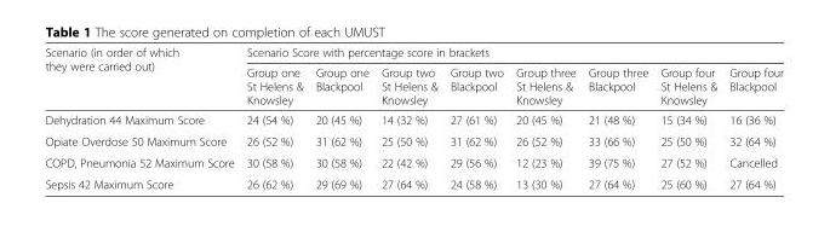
<table><thead><tr><td rowspan="2">Scenario (in order of which they were carried out)</td><td colspan="8">Scenario Score with percentage score in brackets</td></tr><tr><td>Group one St Helens &amp; Knowsley</td><td>Group one Blackpool</td><td>Group two St Helens &amp; Knowsley</td><td>Group two Blackpool</td><td>Group three St Helens &amp; Knowsley</td><td>Group three Blackpool</td><td>Group four St Helens &amp; Knowsley</td><td>Group four Blackpool</td></tr></thead><tbody><tr><td>Dehydration 44 Maximum Score</td><td>24 (54 %)</td><td>20 (45 %)</td><td>14 (32 %)</td><td>27 (61 %)</td><td>20 (45 %)</td><td>21 (48 %)</td><td>15 (34 %)</td><td>16 (36 %)</td></tr><tr><td>Opiate Overdose 50 Maximum Score</td><td>26 (52 %)</td><td>31 (62 %)</td><td>25 (50 %)</td><td>31 (62 %)</td><td>26 (52 %)</td><td>33 (66 %)</td><td>25 (50 %)</td><td>32 (64 %)</td></tr><tr><td>COPD, Pneumonia 52 Maximum Score</td><td>30 (58 %)</td><td>30 (58 %)</td><td>22 (42 %)</td><td>29 (56 %)</td><td>12 (23 %)</td><td>39 (75 %)</td><td>27 (52 %)</td><td>Cancelled</td></tr><tr><td>Sepsis 42 Maximum Score</td><td>26 (62 %)</td><td>29 (69 %)</td><td>27 (64 %)</td><td>24 (58 %)</td><td>13 (30 %)</td><td>27 (64 %)</td><td>25 (60 %)</td><td>27 (64 %)</td></tr></tbody></table>